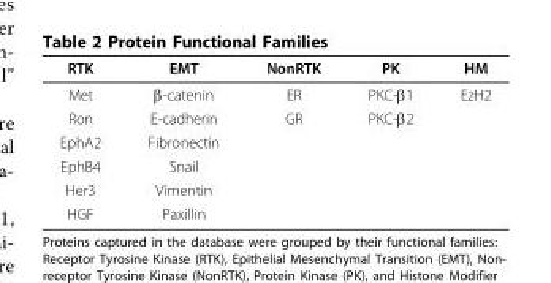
<table><thead><tr><td>RTK</td><td>EMT</td><td>NonRTK</td><td>PK</td><td>HM</td></tr></thead><tbody><tr><td>Met</td><td>β-catenin</td><td>ER</td><td>PKC-β1</td><td>EzH2</td></tr><tr><td>Ron</td><td>E-cadherin</td><td>GR</td><td>PKC-β2</td><td></td></tr><tr><td>EphA2</td><td>Fibronectin</td><td></td><td></td><td></td></tr><tr><td>EphB4</td><td>Snail</td><td></td><td></td><td></td></tr><tr><td>Her3</td><td>Vimentin</td><td></td><td></td><td></td></tr><tr><td>HGF</td><td>Paxillin</td><td></td><td></td><td></td></tr></tbody></table>